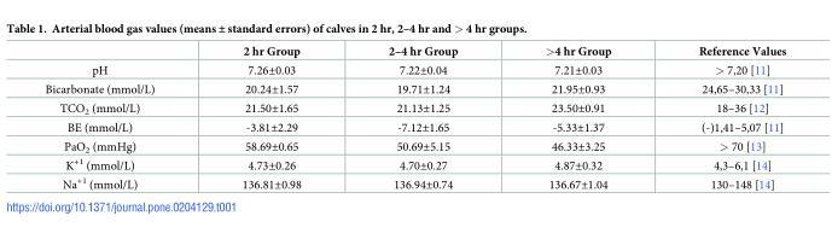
<table><thead><tr><td></td><td>2 hr Group</td><td>2–4 hr Group</td><td>&gt;4 hr Group</td><td>Reference Values</td></tr></thead><tbody><tr><td>pH</td><td>7.26±0.03</td><td>7.22±0.04</td><td>7.21±0.03</td><td>&gt; 7,20 [11]</td></tr><tr><td>Bicarbonate (mmol/L)</td><td>20.24±1.57</td><td>19.71±1.24</td><td>21.95±0.93</td><td>24,65–30,33 [11]</td></tr><tr><td>TCO<sub>2</sub> (mmol/L)</td><td>21.50±1.65</td><td>21.13±1.25</td><td>23.50±0.91</td><td>18–36 [12]</td></tr><tr><td>BE (mmol/L)</td><td>-3.81±2.29</td><td>-7.12±1.65</td><td>-5.33±1.37</td><td>(-)1,41–5,07 [11]</td></tr><tr><td>PaO<sub>2</sub> (mmHg)</td><td>58.69±0.65</td><td>50.69±5.15</td><td>46.33±3.25</td><td>&gt; 70 [13]</td></tr><tr><td>K<sup>+1</sup> (mmol/L)</td><td>4.73±0.26</td><td>4.70±0.27</td><td>4.87±0.32</td><td>4,3–6,1 [14]</td></tr><tr><td>Na<sup>+1</sup> (mmol/L)</td><td>136.81±0.98</td><td>136.94±0.74</td><td>136.67±1.04</td><td>130–148 [14]</td></tr></tbody></table>